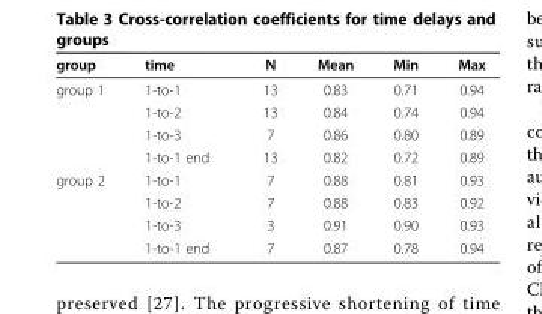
<table><thead><tr><td>group</td><td>time</td><td>N</td><td>Mean</td><td>Min</td><td>Max</td></tr></thead><tbody><tr><td rowspan="4">group 1</td><td>1-to-1</td><td>13</td><td>0.83</td><td>0.71</td><td>0.94</td></tr><tr><td>1-to-2</td><td>13</td><td>0.84</td><td>0.74</td><td>0.94</td></tr><tr><td>1-to-3</td><td>7</td><td>0.86</td><td>0.80</td><td>0.89</td></tr><tr><td>1-to-1 end</td><td>13</td><td>0.82</td><td>0.72</td><td>0.89</td></tr><tr><td rowspan="4">group 2</td><td>1-to-1</td><td>7</td><td>0.88</td><td>0.81</td><td>0.93</td></tr><tr><td>1-to-2</td><td>7</td><td>0.88</td><td>0.83</td><td>0.92</td></tr><tr><td>1-to-3</td><td>3</td><td>0.91</td><td>0.90</td><td>0.93</td></tr><tr><td>1-to-1 end</td><td>7</td><td>0.87</td><td>0.78</td><td>0.94</td></tr></tbody></table>